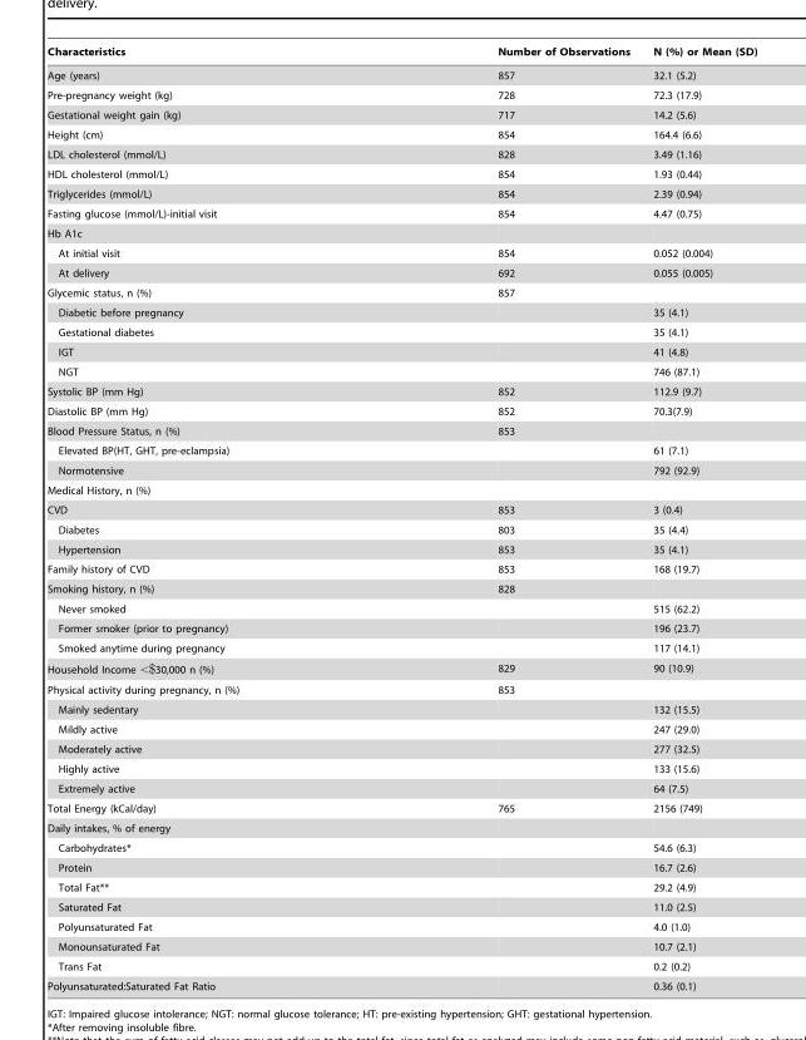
<table><thead><tr><td>Characteristics</td><td>Number of Observations</td><td>N (%) or Mean (SD)</td></tr></thead><tbody><tr><td>Age (years)</td><td>857</td><td>32.1 (5.2)</td></tr><tr><td>Pre-pregnancy weight (kg)</td><td>728</td><td>72.3 (17.9)</td></tr><tr><td>Gestational weight gain (kg)</td><td>717</td><td>14.2 (5.6)</td></tr><tr><td>Height (cm)</td><td>854</td><td>164.4 (6.6)</td></tr><tr><td>LDL cholesterol (mmol/L)</td><td>828</td><td>3.49 (1.16)</td></tr><tr><td>HDL cholesterol (mmol/L)</td><td>854</td><td>1.93 (0.44)</td></tr><tr><td>Triglycerides (mmol/L)</td><td>854</td><td>2.39 (0.94)</td></tr><tr><td>Fasting glucose (mmol/L)-initial visit</td><td>854</td><td>4.47 (0.75)</td></tr><tr><td colspan="3">Hb A1c</td></tr><tr><td>At initial visit</td><td>854</td><td>0.052 (0.004)</td></tr><tr><td>At delivery</td><td>692</td><td>0.055 (0.005)</td></tr><tr><td>Glycemic status, n (%)</td><td>857</td><td></td></tr><tr><td>Diabetic before pregnancy</td><td></td><td>35 (4.1)</td></tr><tr><td>Gestational diabetes</td><td></td><td>35 (4.1)</td></tr><tr><td>IGT</td><td></td><td>41 (4.8)</td></tr><tr><td>NGT</td><td></td><td>746 (87.1)</td></tr><tr><td>Systolic BP (mm Hg)</td><td>852</td><td>112.9 (9.7)</td></tr><tr><td>Diastolic BP (mm Hg)</td><td>852</td><td>70.3(7.9)</td></tr><tr><td>Blood Pressure Status, n (%)</td><td>853</td><td></td></tr><tr><td>Elevated BP(HT, GHT, pre-eclampsia)</td><td></td><td>61 (7.1)</td></tr><tr><td>Normotensive</td><td></td><td>792 (92.9)</td></tr><tr><td colspan="3">Medical History, n (%)</td></tr><tr><td>CVD</td><td>853</td><td>3 (0.4)</td></tr><tr><td>Diabetes</td><td>803</td><td>35 (4.4)</td></tr><tr><td>Hypertension</td><td>853</td><td>35 (4.1)</td></tr><tr><td>Family history of CVD</td><td>853</td><td>168 (19.7)</td></tr><tr><td>Smoking history, n (%)</td><td>828</td><td></td></tr><tr><td>Never smoked</td><td></td><td>515 (62.2)</td></tr><tr><td>Former smoker (prior to pregnancy)</td><td></td><td>196 (23.7)</td></tr><tr><td>Smoked anytime during pregnancy</td><td></td><td>117 (14.1)</td></tr><tr><td>Household Income &lt;$30,000 n (%)</td><td>829</td><td>90 (10.9)</td></tr><tr><td>Physical activity during pregnancy, n (%)</td><td>853</td><td></td></tr><tr><td>Mainly sedentary</td><td></td><td>132 (15.5)</td></tr><tr><td>Mildly active</td><td></td><td>247 (29.0)</td></tr><tr><td>Moderately active</td><td></td><td>277 (32.5)</td></tr><tr><td>Highly active</td><td></td><td>133 (15.6)</td></tr><tr><td>Extremely active</td><td></td><td>64 (7.5)</td></tr><tr><td>Total Energy (kCal/day)</td><td>765</td><td>2156 (749)</td></tr><tr><td colspan="3">Daily intakes, % of energy</td></tr><tr><td>Carbohydrates*</td><td></td><td>54.6 (6.3)</td></tr><tr><td>Protein</td><td></td><td>16.7 (2.6)</td></tr><tr><td>Total Fat**</td><td></td><td>29.2 (4.9)</td></tr><tr><td>Saturated Fat</td><td></td><td>11.0 (2.5)</td></tr><tr><td>Polyunsaturated Fat</td><td></td><td>4.0 (1.0)</td></tr><tr><td>Monounsaturated Fat</td><td></td><td>10.7 (2.1)</td></tr><tr><td>Trans Fat</td><td></td><td>0.2 (0.2)</td></tr><tr><td>Polyunsaturated:Saturated Fat Ratio</td><td></td><td>0.36 (0.1)</td></tr></tbody></table>